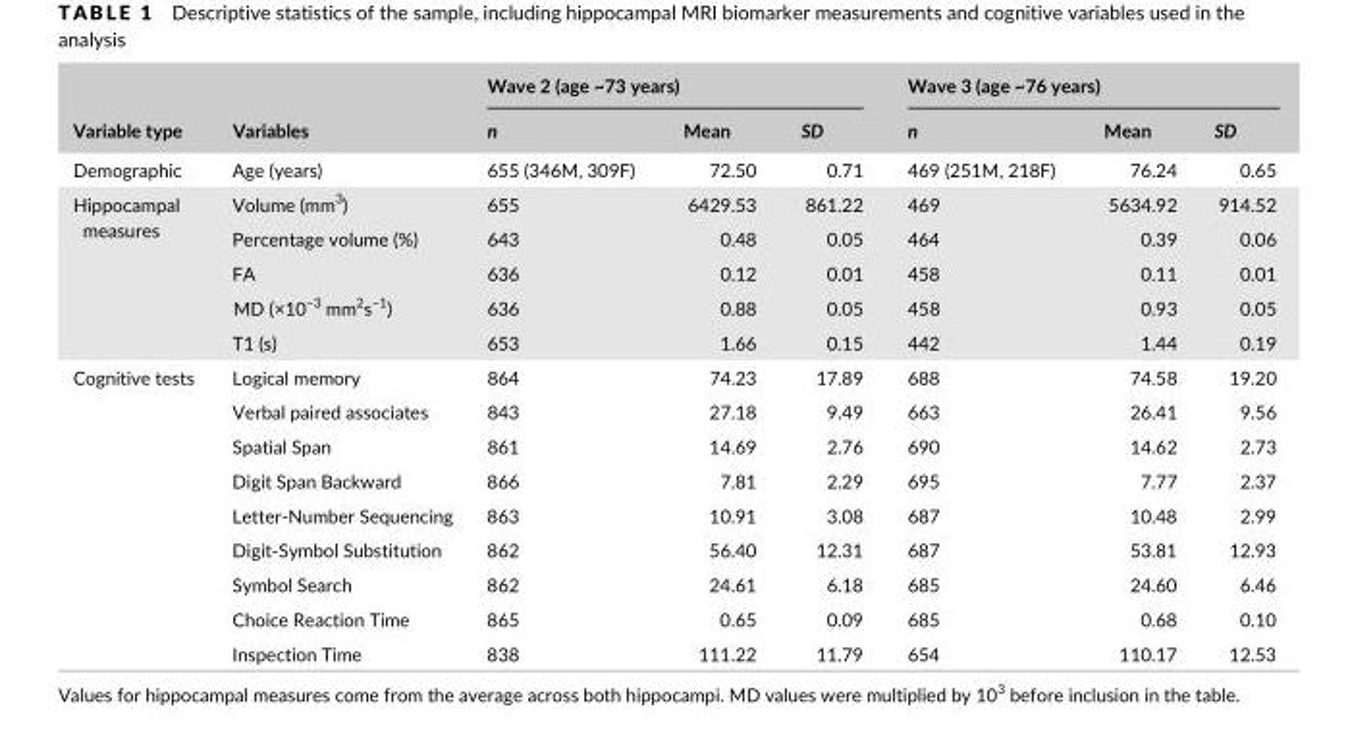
<table><thead><tr><td rowspan="2">Variable type</td><td rowspan="2">Variables</td><td colspan="3">Wave 2 (age ~73 years)</td><td colspan="3">Wave 3 (age ~76 years)</td></tr><tr><td>n</td><td>Mean</td><td>SD</td><td>n</td><td>Mean</td><td>SD</td></tr></thead><tbody><tr><td>Demographic</td><td>Age (years)</td><td>655 (346M, 309F)</td><td>72.50</td><td>0.71</td><td>469 (251M, 218F)</td><td>76.24</td><td>0.65</td></tr><tr><td rowspan="5">Hippocampal measures</td><td>Volume (mm<sup>3</sup>)</td><td>655</td><td>6429.53</td><td>861.22</td><td>469</td><td>5634.92</td><td>914.52</td></tr><tr><td>Percentage volume (%)</td><td>643</td><td>0.48</td><td>0.05</td><td>464</td><td>0.39</td><td>0.06</td></tr><tr><td>FA</td><td>636</td><td>0.12</td><td>0.01</td><td>458</td><td>0.11</td><td>0.01</td></tr><tr><td>MD (×10<sup>−3</sup> mm<sup>2</sup>s<sup>−1</sup>)</td><td>636</td><td>0.88</td><td>0.05</td><td>458</td><td>0.93</td><td>0.05</td></tr><tr><td>T1 (s)</td><td>653</td><td>1.66</td><td>0.15</td><td>442</td><td>1.44</td><td>0.19</td></tr><tr><td rowspan="9">Cognitive tests</td><td>Logical memory</td><td>864</td><td>74.23</td><td>17.89</td><td>688</td><td>74.58</td><td>19.20</td></tr><tr><td>Verbal paired associates</td><td>843</td><td>27.18</td><td>9.49</td><td>663</td><td>26.41</td><td>9.56</td></tr><tr><td>Spatial Span</td><td>861</td><td>14.69</td><td>2.76</td><td>690</td><td>14.62</td><td>2.73</td></tr><tr><td>Digit Span Backward</td><td>866</td><td>7.81</td><td>2.29</td><td>695</td><td>7.77</td><td>2.37</td></tr><tr><td>Letter- Number Sequencing</td><td>863</td><td>10.91</td><td>3.08</td><td>687</td><td>10.48</td><td>2.99</td></tr><tr><td>Digit- Symbol Substitution</td><td>862</td><td>56.40</td><td>12.31</td><td>687</td><td>53.81</td><td>12.93</td></tr><tr><td>Symbol Search</td><td>862</td><td>24.61</td><td>6.18</td><td>685</td><td>24.60</td><td>6.46</td></tr><tr><td>Choice Reaction Time</td><td>865</td><td>0.65</td><td>0.09</td><td>685</td><td>0.68</td><td>0.10</td></tr><tr><td>Inspection Time</td><td>838</td><td>111.22</td><td>11.79</td><td>654</td><td>110.17</td><td>12.53</td></tr></tbody></table>